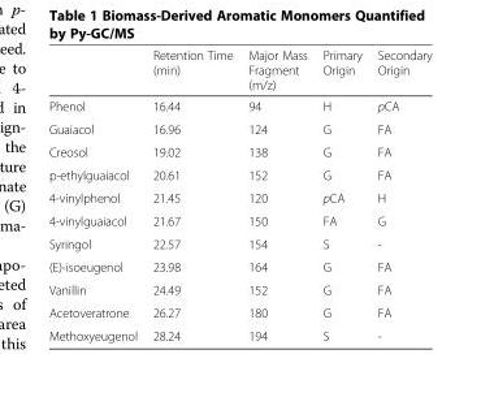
<table><thead><tr><td></td><td>Retention Time (min)</td><td>Major Mass Fragment (m/z)</td><td>Primary Origin</td><td>Secondary Origin</td></tr></thead><tbody><tr><td>Phenol</td><td>16.44</td><td>94</td><td>H</td><td>pCA</td></tr><tr><td>Guaiacol</td><td>16.96</td><td>124</td><td>G</td><td>FA</td></tr><tr><td>Creosol</td><td>19.02</td><td>138</td><td>G</td><td>FA</td></tr><tr><td>p-ethylguaiacol</td><td>20.61</td><td>152</td><td>G</td><td>FA</td></tr><tr><td>4-vinylphenol</td><td>21.45</td><td>120</td><td>pCA</td><td>H</td></tr><tr><td>4-vinylguaiacol</td><td>21.67</td><td>150</td><td>FA</td><td>G</td></tr><tr><td>Syringol</td><td>22.57</td><td>154</td><td>S</td><td>-</td></tr><tr><td>(E)-isoeugenol</td><td>23.98</td><td>164</td><td>G</td><td>FA</td></tr><tr><td>Vanillin</td><td>24.49</td><td>152</td><td>G</td><td>FA</td></tr><tr><td>Acetoveratrone</td><td>26.27</td><td>180</td><td>G</td><td>FA</td></tr><tr><td>Methoxyeugenol</td><td>28.24</td><td>194</td><td>S</td><td>-</td></tr></tbody></table>